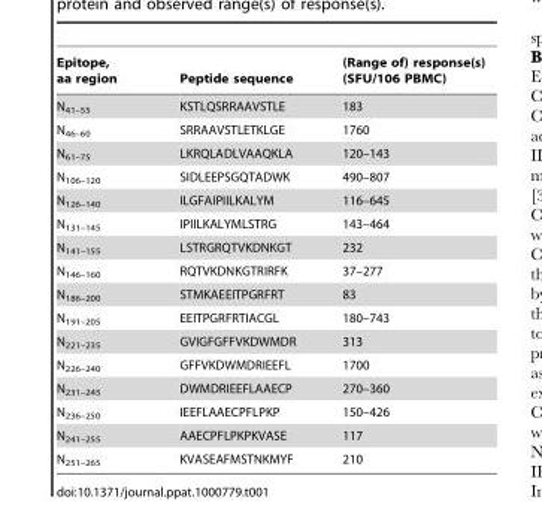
<table><thead><tr><td>Epitope, aa region</td><td>Peptide sequence</td><td>(Range of) response(s) (SFU/106 PBMC)</td></tr></thead><tbody><tr><td>N<sub>41–55</sub></td><td>KSTLQSRRAAVSTLE</td><td>183</td></tr><tr><td>N<sub>46–60</sub></td><td>SRRAAVSTLETKLGE</td><td>1760</td></tr><tr><td>N<sub>61–75</sub></td><td>LKRQLADLVAAQKLA</td><td>120–143</td></tr><tr><td>N<sub>106–120</sub></td><td>SIDLEEPSGQTADWK</td><td>490–807</td></tr><tr><td>N<sub>126–140</sub></td><td>ILGFAIPIILKALYM</td><td>116–645</td></tr><tr><td>N<sub>131–145</sub></td><td>IPIILKALYMLSTRG</td><td>143–464</td></tr><tr><td>N<sub>141–155</sub></td><td>LSTRGRQTVKDNKGT</td><td>232</td></tr><tr><td>N<sub>146–160</sub></td><td>RQTVKDNKGTRIRFK</td><td>37–277</td></tr><tr><td>N<sub>186–200</sub></td><td>STMKAEEITPGRFRT</td><td>83</td></tr><tr><td>N<sub>191–205</sub></td><td>EEITPGRFRTIACGL</td><td>180–743</td></tr><tr><td>N<sub>221–235</sub></td><td>GVIGFGFFVKDWMDR</td><td>313</td></tr><tr><td>N<sub>226–240</sub></td><td>GFFVKDWMDRIEEFL</td><td>1700</td></tr><tr><td>N<sub>231–245</sub></td><td>DWMDRIEEFLAAECP</td><td>270–360</td></tr><tr><td>N<sub>236–250</sub></td><td>IEEFLAAECPFLPKP</td><td>150–426</td></tr><tr><td>N<sub>241–255</sub></td><td>AAECPFLPKPKVASE</td><td>117</td></tr><tr><td>N<sub>251–265</sub></td><td>KVASEAFMSTNKMYF</td><td>210</td></tr></tbody></table>